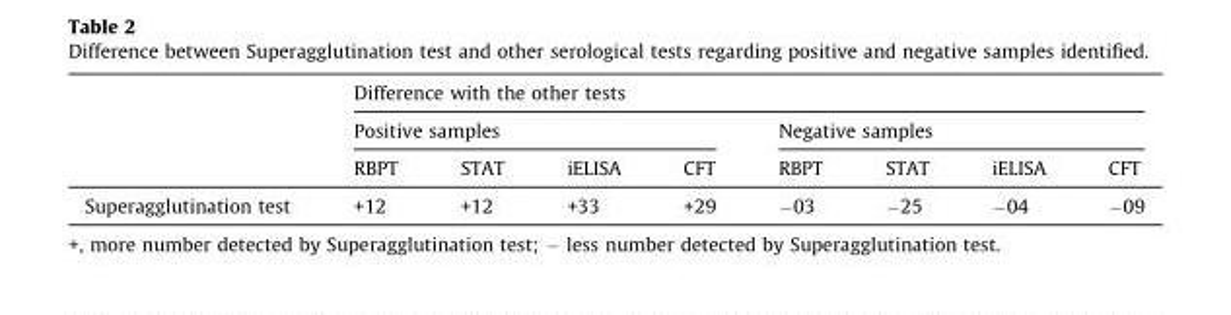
<table><thead><tr><td rowspan="3"></td><td colspan="8">Difference with the other tests</td></tr><tr><td colspan="4">Positive samples</td><td colspan="4">Negative samples</td></tr><tr><td>RBPT</td><td>STAT</td><td>iELISA</td><td>CFT</td><td>RBPT</td><td>STAT</td><td>iELISA</td><td>CFT</td></tr></thead><tbody><tr><td>Superagglutination test</td><td>+12</td><td>+12</td><td>+33</td><td>+29</td><td>−03</td><td>−25</td><td>−04</td><td>−09</td></tr></tbody></table>